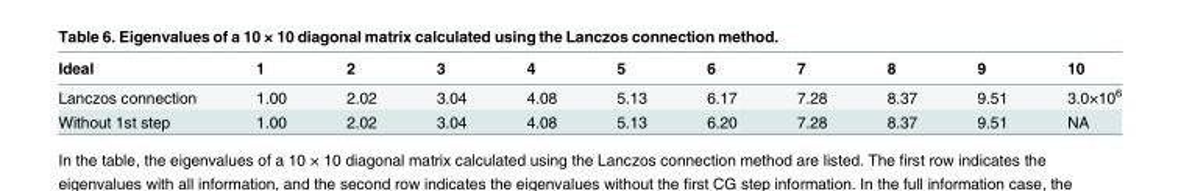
<table><thead><tr><td>Ideal</td><td>1</td><td>2</td><td>3</td><td>4</td><td>5</td><td>6</td><td>7</td><td>8</td><td>9</td><td>10</td></tr></thead><tbody><tr><td>Lanczos connection</td><td>1.00</td><td>2.02</td><td>3.04</td><td>4.08</td><td>5.13</td><td>6.17</td><td>7.28</td><td>8.37</td><td>9.51</td><td>3.0×10<sup>6</sup></td></tr><tr><td>Without 1st step</td><td>1.00</td><td>2.02</td><td>3.04</td><td>4.08</td><td>5.13</td><td>6.20</td><td>7.28</td><td>8.37</td><td>9.51</td><td>NA</td></tr></tbody></table>